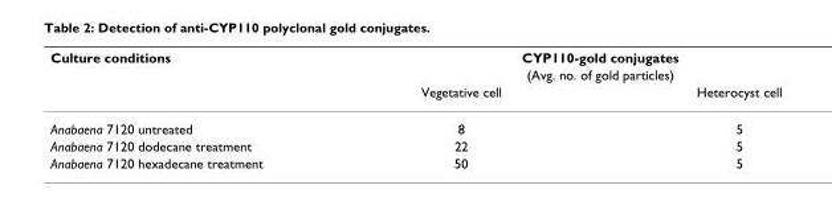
<table><thead><tr><td rowspan="3">Culture conditions</td><td rowspan="2" colspan="2">CYP110-gold conjugates (Avg. no. of gold particles)</td></tr><tr></tr><tr><td>Vegetative cell</td><td>Heterocyst cell</td></tr></thead><tbody><tr><td>Anabaena 7120 untreated</td><td>8</td><td>5</td></tr><tr><td>Anabaena 7120 dodecane treatment</td><td>22</td><td>5</td></tr><tr><td>Anabaena 7120 hexadecane treatment</td><td>50</td><td>5</td></tr></tbody></table>